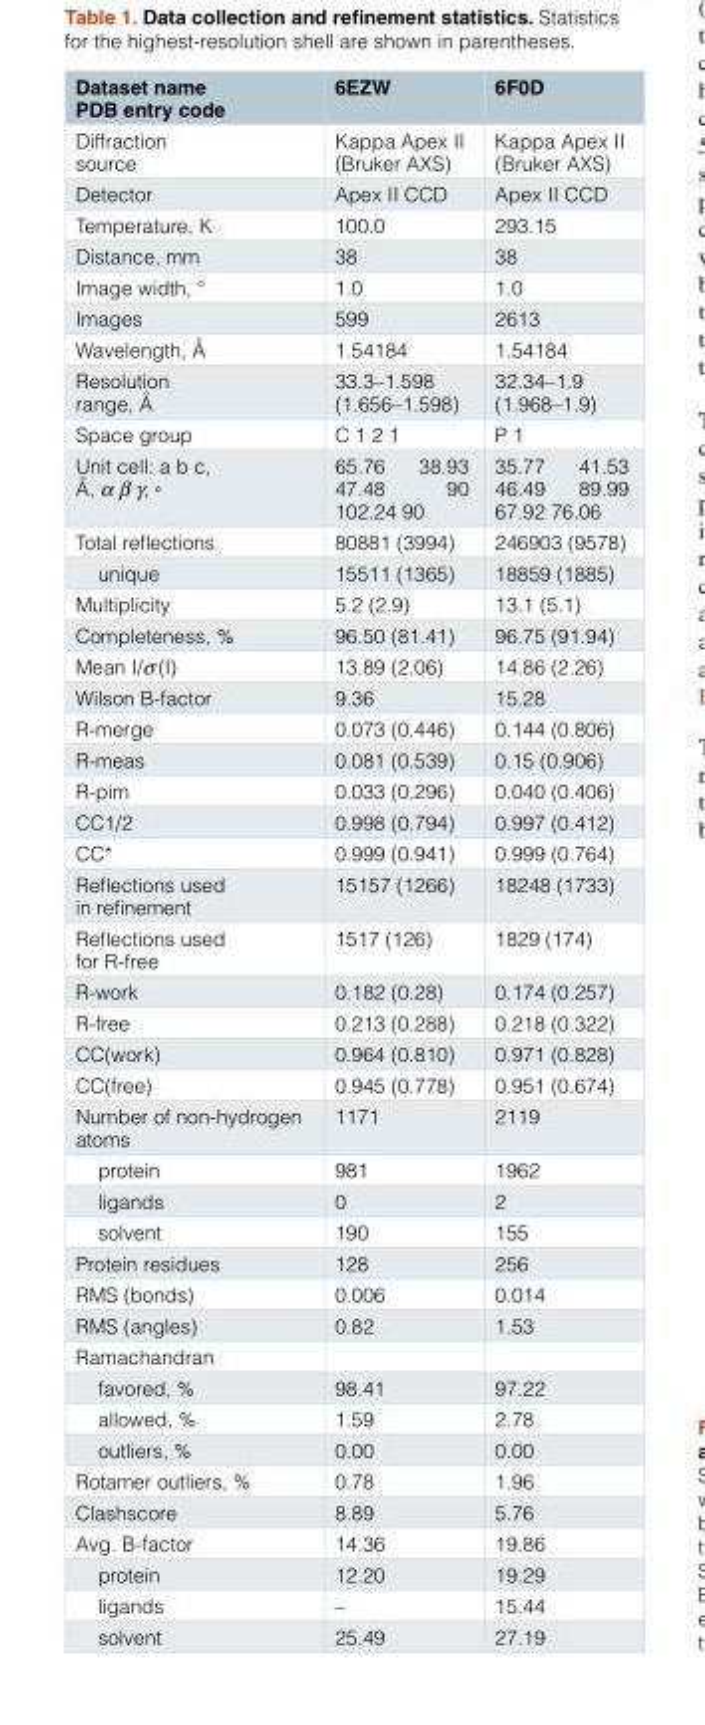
<table><thead><tr><td>Dataset name PDB entry code</td><td>6EZW</td><td>6F0D</td></tr></thead><tbody><tr><td>Diffraction source</td><td>Kappa Apex II (Bruker AXS)</td><td>Kappa Apex II (Bruker AXS)</td></tr><tr><td>Detector</td><td>Apex II CCD</td><td>Apex II CCD</td></tr><tr><td>Temperature, K</td><td>100.0</td><td>293.15</td></tr><tr><td>Distance, mm</td><td>38</td><td>38</td></tr><tr><td>Image width, °</td><td>1.0</td><td>1.0</td></tr><tr><td>Images</td><td>599</td><td>2613</td></tr><tr><td>Wavelength, Å</td><td>1.54184</td><td>1.54184</td></tr><tr><td>Resolution range, Å</td><td>33.3–1.598 (1.656–1.598)</td><td>32.34–1.9 (1.968–1.9)</td></tr><tr><td>Space group</td><td>C 1 2 1</td><td>P 1</td></tr><tr><td>Unit cell: a b c, Å, α β γ, ◦</td><td>65.76 38.93 47.48 90 102.24 90</td><td>35.77 41.53 46.49 89.99 67.92 76.06</td></tr><tr><td>Total reflections</td><td>80881 (3994)</td><td>246903 (9578)</td></tr><tr><td>unique</td><td>15511 (1365)</td><td>18859 (1885)</td></tr><tr><td>Multiplicity</td><td>5.2 (2.9)</td><td>13.1 (5.1)</td></tr><tr><td>Completeness, %</td><td>96.50 (81.41)</td><td>96.75 (91.94)</td></tr><tr><td>Mean I/σ (I)</td><td>13.89 (2.06)</td><td>14.86 (2.26)</td></tr><tr><td>Wilson B-factor</td><td>9.36</td><td>15.28</td></tr><tr><td>R-merge</td><td>0.073 (0.446)</td><td>0.144 (0.806)</td></tr><tr><td>R-meas</td><td>0.081 (0.539)</td><td>0.15 (0.906)</td></tr><tr><td>R-pim</td><td>0.033 (0.296)</td><td>0.040 (0.406)</td></tr><tr><td>CC1/2</td><td>0.998 (0.794)</td><td>0.997 (0.412)</td></tr><tr><td>CC*</td><td>0.999 (0.941)</td><td>0.999 (0.764)</td></tr><tr><td>Reflections used in refinement</td><td>15157 (1266)</td><td>18248 (1733)</td></tr><tr><td>Reflections used for R-free</td><td>1517 (126)</td><td>1829 (174)</td></tr><tr><td>R-work</td><td>0.182 (0.28)</td><td>0.174 (0.257)</td></tr><tr><td>R-free</td><td>0.213 (0.288)</td><td>0.218 (0.322)</td></tr><tr><td>CC(work)</td><td>0.964 (0.810)</td><td>0.971 (0.828)</td></tr><tr><td>CC(free)</td><td>0.945 (0.778)</td><td>0.951 (0.674)</td></tr><tr><td>Number of non-hydrogen atoms</td><td>1171</td><td>2119</td></tr><tr><td>protein</td><td>981</td><td>1962</td></tr><tr><td>ligands</td><td>0</td><td>2</td></tr><tr><td>solvent</td><td>190</td><td>155</td></tr><tr><td>Protein residues</td><td>128</td><td>256</td></tr><tr><td>RMS (bonds)</td><td>0.006</td><td>0.014</td></tr><tr><td>RMS (angles)</td><td>0.82</td><td>1.53</td></tr><tr><td colspan="3">Ramachandran</td></tr><tr><td>favored, %</td><td>98.41</td><td>97.22</td></tr><tr><td>allowed, %</td><td>1.59</td><td>2.78</td></tr><tr><td>outliers, %</td><td>0.00</td><td>0.00</td></tr><tr><td>Rotamer outliers, %</td><td>0.78</td><td>1.96</td></tr><tr><td>Clashscore</td><td>8.89</td><td>5.76</td></tr><tr><td>Avg. B-factor</td><td>14.36</td><td>19.86</td></tr><tr><td>protein</td><td>12.20</td><td>19.29</td></tr><tr><td>ligands</td><td>–</td><td>15.44</td></tr><tr><td>solvent</td><td>25.49</td><td>27.19</td></tr></tbody></table>